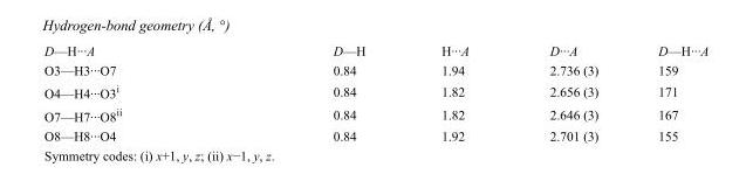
<table><tbody><tr><td>D—H···A</td><td>D—H</td><td>H···A</td><td>D···A</td><td>D—H···A</td></tr><tr><td>O3—H3···O7</td><td>0.84</td><td>1.94</td><td>2.736 (3)</td><td>159</td></tr><tr><td>O4—H4···O3<sup>i</sup></td><td>0.84</td><td>1.82</td><td>2.656 (3)</td><td>171</td></tr><tr><td>O7—H7···O8<sup>ii</sup></td><td>0.84</td><td>1.82</td><td>2.646 (3)</td><td>167</td></tr><tr><td>O8—H8···O4</td><td>0.84</td><td>1.92</td><td>2.701 (3)</td><td>155</td></tr></tbody></table>